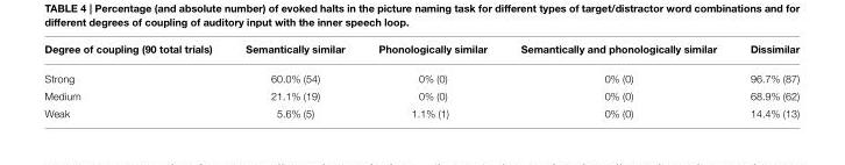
<table><thead><tr><td>Degree of coupling (90 total trials)</td><td>Semantically similar</td><td>Phonologically similar</td><td>Semantically and phonologically similar</td><td>Dissimilar</td></tr></thead><tbody><tr><td>Strong</td><td>60.0% (54)</td><td>0% (0)</td><td>0% (0)</td><td>96.7% (87)</td></tr><tr><td>Medium</td><td>21.1% (19)</td><td>0% (0)</td><td>0% (0)</td><td>68.9% (62)</td></tr><tr><td>Weak</td><td>5.6% (5)</td><td>1.1% (1)</td><td>0% (0)</td><td>14.4% (13)</td></tr></tbody></table>